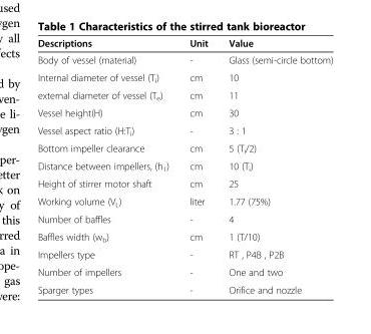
<table><thead><tr><td>Descriptions</td><td>Unit</td><td>Value</td></tr></thead><tbody><tr><td>Body of vessel (material)</td><td>-</td><td>Glass (semi-circle bottom)</td></tr><tr><td>Internal diameter of vessel (T<sub>i</sub>)</td><td>cm</td><td>10</td></tr><tr><td>external diameter of vessel (T<sub>e</sub>)</td><td>cm</td><td>11</td></tr><tr><td>Vessel height(H)</td><td>cm</td><td>30</td></tr><tr><td>Vessel aspect ratio (H:T<sub>i</sub>)</td><td>-</td><td>3 : 1</td></tr><tr><td>Bottom impeller clearance</td><td>cm</td><td>5 (T<sub>i</sub>/2)</td></tr><tr><td>Distance between impellers, (h<sub>1</sub>)</td><td>cm</td><td>10 (T<sub>i</sub>)</td></tr><tr><td>Height of stirrer motor shaft</td><td>cm</td><td>25</td></tr><tr><td>Working volume (V<sub>L</sub>)</td><td>liter</td><td>1.77 (75%)</td></tr><tr><td>Number of baffles</td><td>-</td><td>4</td></tr><tr><td>Baffles width (w<sub>b</sub>)</td><td>cm</td><td>1 (T/10)</td></tr><tr><td>Impellers type</td><td>-</td><td>RT , P4B , P2B</td></tr><tr><td>Number of impellers</td><td>-</td><td>One and two</td></tr><tr><td>Sparger types</td><td>-</td><td>Orifice and nozzle</td></tr></tbody></table>